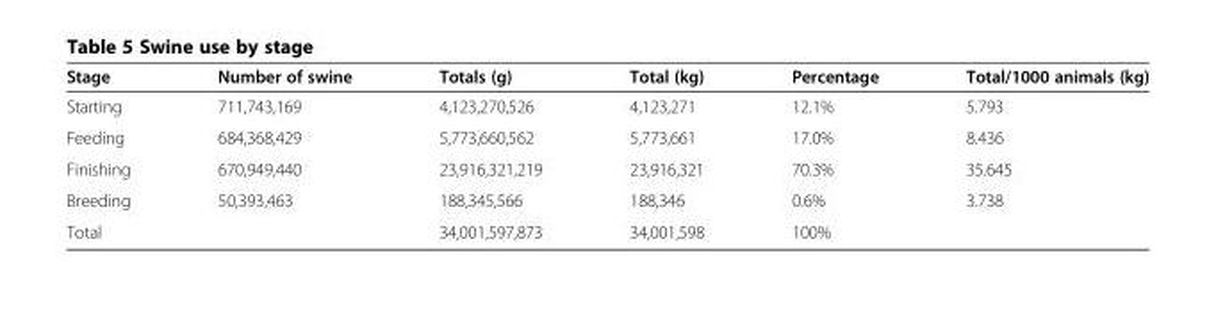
<table><thead><tr><td>Stage</td><td>Number of swine</td><td>Totals (g)</td><td>Total (kg)</td><td>Percentage</td><td>Total/1000 animals (kg)</td></tr></thead><tbody><tr><td>Starting</td><td>711,743,169</td><td>4,123,270,526</td><td>4,123,271</td><td>12.1%</td><td>5.793</td></tr><tr><td>Feeding</td><td>684,368,429</td><td>5,773,660,562</td><td>5,773,661</td><td>17.0%</td><td>8.436</td></tr><tr><td>Finishing</td><td>670,949,440</td><td>23,916,321,219</td><td>23,916,321</td><td>70.3%</td><td>35.645</td></tr><tr><td>Breeding</td><td>50,393,463</td><td>188,345,566</td><td>188,346</td><td>0.6%</td><td>3.738</td></tr><tr><td>Total</td><td></td><td>34,001,597,873</td><td>34,001,598</td><td>100%</td><td></td></tr></tbody></table>